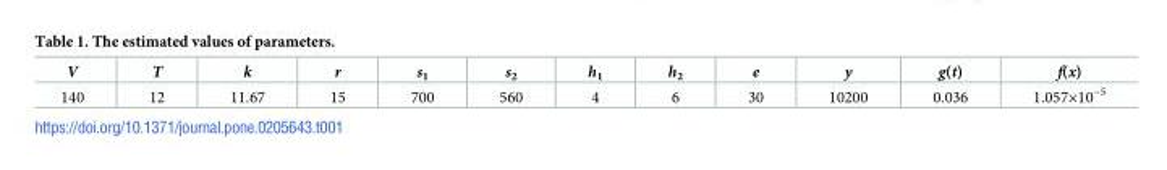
<table><thead><tr><td>V</td><td>T</td><td>k</td><td>r</td><td>s<sub>1</sub></td><td>s<sub>2</sub></td><td>h<sub>1</sub></td><td>h<sub>2</sub></td><td>e</td><td>y</td><td>g(t)</td><td>f(x)</td></tr></thead><tbody><tr><td>140</td><td>12</td><td>11.67</td><td>15</td><td>700</td><td>560</td><td>4</td><td>6</td><td>30</td><td>10200</td><td>0.036</td><td>1.057×10<sup>−5</sup></td></tr></tbody></table>